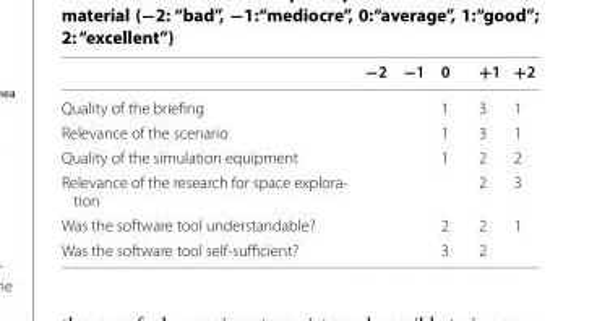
<table><thead><tr><td></td><td>−2</td><td>−1</td><td>0</td><td>+1</td><td>+2</td></tr></thead><tbody><tr><td>Quality of the briefing</td><td></td><td></td><td>1</td><td>3</td><td>1</td></tr><tr><td>Relevance of the scenario</td><td></td><td></td><td>1</td><td>3</td><td>1</td></tr><tr><td>Quality of the simulation equipment</td><td></td><td></td><td>1</td><td>2</td><td>2</td></tr><tr><td>Relevance of the research for space explora- tion</td><td></td><td></td><td></td><td>2</td><td>3</td></tr><tr><td>Was the software tool understandable?</td><td></td><td></td><td>2</td><td>2</td><td>1</td></tr><tr><td>Was the software tool self-sufficient?</td><td></td><td></td><td>3</td><td>2</td><td></td></tr></tbody></table>